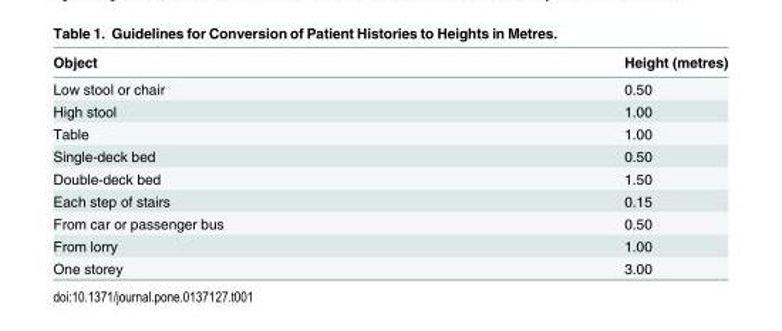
<table><thead><tr><td>Object</td><td>Height (metres)</td></tr></thead><tbody><tr><td>Low stool or chair</td><td>0.50</td></tr><tr><td>High stool</td><td>1.00</td></tr><tr><td>Table</td><td>1.00</td></tr><tr><td>Single-deck bed</td><td>0.50</td></tr><tr><td>Double-deck bed</td><td>1.50</td></tr><tr><td>Each step of stairs</td><td>0.15</td></tr><tr><td>From car or passenger bus</td><td>0.50</td></tr><tr><td>From lorry</td><td>1.00</td></tr><tr><td>One storey</td><td>3.00</td></tr></tbody></table>